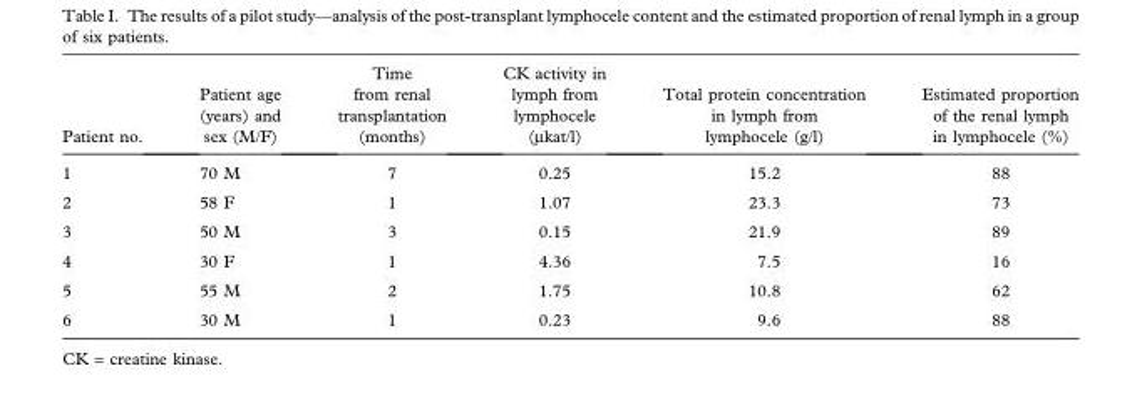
<table><thead><tr><td>Patient no.</td><td>Patient age (years) and sex (M/F)</td><td>Time from renal transplantation (months)</td><td>CK activity in lymph from lymphocele (μkat/l)</td><td>Total protein concentration in lymph from lymphocele (g/l)</td><td>Estimated proportion of the renal lymph in lymphocele (%)</td></tr></thead><tbody><tr><td>1</td><td>70 M</td><td>7</td><td>0.25</td><td>15.2</td><td>88</td></tr><tr><td>2</td><td>58 F</td><td>1</td><td>1.07</td><td>23.3</td><td>73</td></tr><tr><td>3</td><td>50 M</td><td>3</td><td>0.15</td><td>21.9</td><td>89</td></tr><tr><td>4</td><td>30 F</td><td>1</td><td>4.36</td><td>7.5</td><td>16</td></tr><tr><td>5</td><td>55 M</td><td>2</td><td>1.75</td><td>10.8</td><td>62</td></tr><tr><td>6</td><td>30 M</td><td>1</td><td>0.23</td><td>9.6</td><td>88</td></tr></tbody></table>